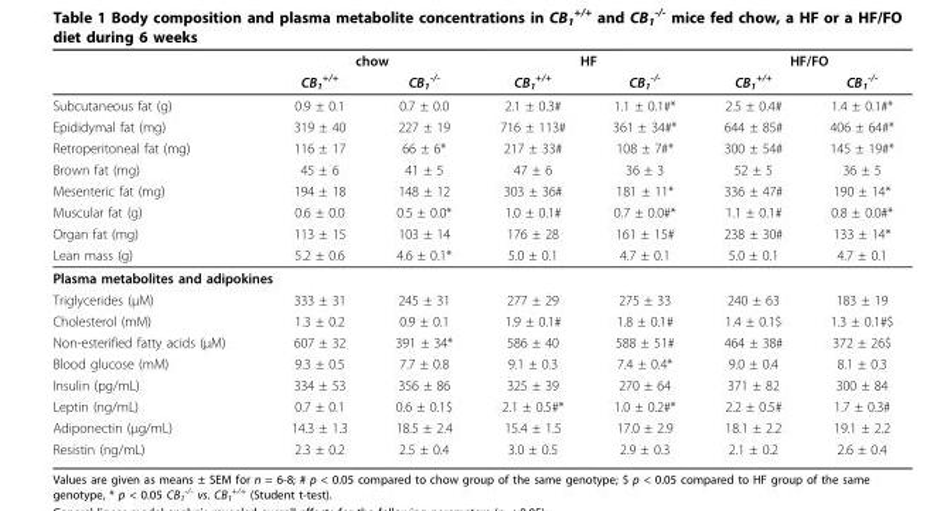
<table><thead><tr><td rowspan="2"></td><td colspan="2">chow</td><td colspan="2">HF</td><td colspan="2">HF/FO</td></tr><tr><td>CB<sub>1</sub> <sup>+/+</sup></td><td>CB<sub>1</sub> <sup>-/-</sup></td><td>CB<sub>1</sub> <sup>+/+</sup></td><td>CB<sub>1</sub> <sup>-/-</sup></td><td>CB<sub>1</sub> <sup>+/+</sup></td><td>CB<sub>1</sub> <sup>-/-</sup></td></tr></thead><tbody><tr><td>Subcutaneous fat (g)</td><td>0.9 ± 0.1</td><td>0.7 ± 0.0</td><td>2.1 ± 0.3#</td><td>1.1 ± 0.1#*</td><td>2.5 ± 0.4#</td><td>1.4 ± 0.1#*</td></tr><tr><td>Epididymal fat (mg)</td><td>319 ± 40</td><td>227 ± 19</td><td>716 ± 113#</td><td>361 ± 34#*</td><td>644 ± 85#</td><td>406 ± 64#*</td></tr><tr><td>Retroperitoneal fat (mg)</td><td>116 ± 17</td><td>66 ± 6*</td><td>217 ± 33#</td><td>108 ± 7#*</td><td>300 ± 54#</td><td>145 ± 19#*</td></tr><tr><td>Brown fat (mg)</td><td>45 ± 6</td><td>41 ± 5</td><td>47 ± 6</td><td>36 ± 3</td><td>52 ± 5</td><td>36 ± 5</td></tr><tr><td>Mesenteric fat (mg)</td><td>194 ± 18</td><td>148 ± 12</td><td>303 ± 36#</td><td>181 ± 11*</td><td>336 ± 47#</td><td>190 ± 14*</td></tr><tr><td>Muscular fat (g)</td><td>0.6 ± 0.0</td><td>0.5 ± 0.0*</td><td>1.0 ± 0.1#</td><td>0.7 ± 0.0#*</td><td>1.1 ± 0.1#</td><td>0.8 ± 0.0#*</td></tr><tr><td>Organ fat (mg)</td><td>113 ± 15</td><td>103 ± 14</td><td>176 ± 28</td><td>161 ± 15#</td><td>238 ± 30#</td><td>133 ± 14*</td></tr><tr><td>Lean mass (g)</td><td>5.2 ± 0.6</td><td>4.6 ± 0.1*</td><td>5.0 ± 0.1</td><td>4.7 ± 0.1</td><td>5.0 ± 0.1</td><td>4.7 ± 0.1</td></tr><tr><td colspan="7">Plasma metabolites and adipokines</td></tr><tr><td>Triglycerides (μM)</td><td>333 ± 31</td><td>245 ± 31</td><td>277 ± 29</td><td>275 ± 33</td><td>240 ± 63</td><td>183 ± 19</td></tr><tr><td>Cholesterol (mM)</td><td>1.3 ± 0.2</td><td>0.9 ± 0.1</td><td>1.9 ± 0.1#</td><td>1.8 ± 0.1#</td><td>1.4 ± 0.1$</td><td>1.3 ± 0.1#$</td></tr><tr><td>Non-esterified fatty acids (μM)</td><td>607 ± 32</td><td>391 ± 34*</td><td>586 ± 40</td><td>588 ± 51#</td><td>464 ± 38#</td><td>372 ± 26$</td></tr><tr><td>Blood glucose (mM)</td><td>9.3 ± 0.5</td><td>7.7 ± 0.8</td><td>9.1 ± 0.3</td><td>7.4 ± 0.4*</td><td>9.0 ± 0.4</td><td>8.1 ± 0.3</td></tr><tr><td>Insulin (pg/mL)</td><td>334 ± 53</td><td>356 ± 86</td><td>325 ± 39</td><td>270 ± 64</td><td>371 ± 82</td><td>300 ± 84</td></tr><tr><td>Leptin (ng/mL)</td><td>0.7 ± 0.1</td><td>0.6 ± 0.1$</td><td>2.1 ± 0.5#*</td><td>1.0 ± 0.2#*</td><td>2.2 ± 0.5#</td><td>1.7 ± 0.3#</td></tr><tr><td>Adiponectin (μg/mL)</td><td>14.3 ± 1.3</td><td>18.5 ± 2.4</td><td>15.4 ± 1.5</td><td>17.0 ± 2.9</td><td>18.1 ± 2.2</td><td>19.1 ± 2.2</td></tr><tr><td>Resistin (ng/mL)</td><td>2.3 ± 0.2</td><td>2.5 ± 0.4</td><td>3.0 ± 0.5</td><td>2.9 ± 0.3</td><td>2.1 ± 0.2</td><td>2.6 ± 0.4</td></tr></tbody></table>